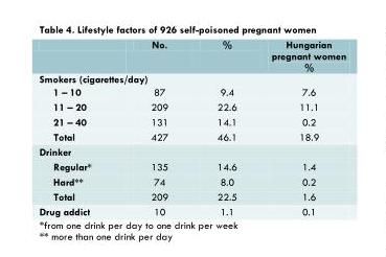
<table><thead><tr><td></td><td>No.</td><td>%</td><td>Hungarian pregnant women %</td></tr></thead><tbody><tr><td colspan="4">Smokers (cigarettes/day)</td></tr><tr><td>1 – 10</td><td>87</td><td>9.4</td><td>7.6</td></tr><tr><td>11 – 20</td><td>209</td><td>22.6</td><td>11.1</td></tr><tr><td>21 – 40</td><td>131</td><td>14.1</td><td>0.2</td></tr><tr><td>Total</td><td>427</td><td>46.1</td><td>18.9</td></tr><tr><td colspan="4">Drinker</td></tr><tr><td>Regular*</td><td>135</td><td>14.6</td><td>1.4</td></tr><tr><td>Hard**</td><td>74</td><td>8.0</td><td>0.2</td></tr><tr><td>Total</td><td>209</td><td>22.5</td><td>1.6</td></tr><tr><td>Drug addict</td><td>10</td><td>1.1</td><td>0.1</td></tr></tbody></table>